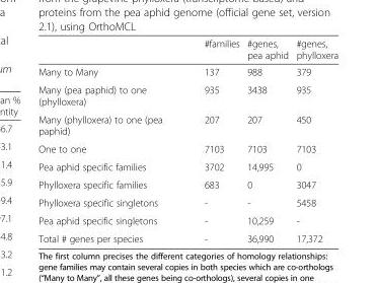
<table><thead><tr><td></td><td>#families</td><td>#genes, pea aphid</td><td>#genes, phylloxera</td></tr></thead><tbody><tr><td>Many to Many</td><td>137</td><td>988</td><td>379</td></tr><tr><td>Many (pea paphid) to one (phylloxera)</td><td>935</td><td>3438</td><td>935</td></tr><tr><td>Many (phylloxera) to one (pea paphid)</td><td>207</td><td>207</td><td>450</td></tr><tr><td>One to one</td><td>7103</td><td>7103</td><td>7103</td></tr><tr><td>Pea aphid specific families</td><td>3702</td><td>14,995</td><td>0</td></tr><tr><td>Phylloxera specific families</td><td>683</td><td>0</td><td>3047</td></tr><tr><td>Phylloxera specific singletons</td><td>-</td><td>-</td><td>5458</td></tr><tr><td>Pea aphid specific singletons</td><td>-</td><td>10,259</td><td>-</td></tr><tr><td>Total # genes per species</td><td>-</td><td>36,990</td><td>17,372</td></tr></tbody></table>